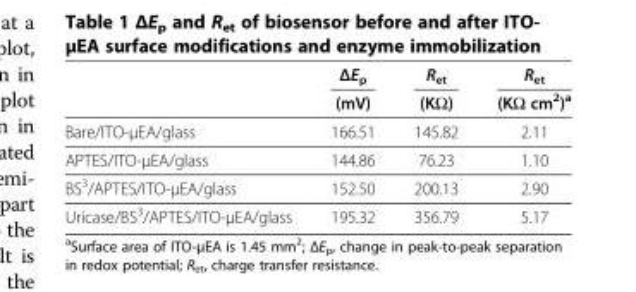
<table><thead><tr><td rowspan="2"></td><td rowspan="2">ΔE<sub>p</sub> (mV)</td><td rowspan="2">R<sub>et</sub> (KΩ)</td><td rowspan="2">R<sub>et</sub> (KΩ cm<sup>2</sup>)<sup>a</sup></td></tr><tr></tr></thead><tbody><tr><td>Bare/ITO-μEA/glass</td><td>166.51</td><td>145.82</td><td>2.11</td></tr><tr><td>APTES/ITO-μEA/glass</td><td>144.86</td><td>76.23</td><td>1.10</td></tr><tr><td>BS<sup>3</sup>/APTES/ITO-μEA/glass</td><td>152.50</td><td>200.13</td><td>2.90</td></tr><tr><td>Uricase/BS<sup>3</sup>/APTES/ITO-μEA/glass</td><td>195.32</td><td>356.79</td><td>5.17</td></tr></tbody></table>